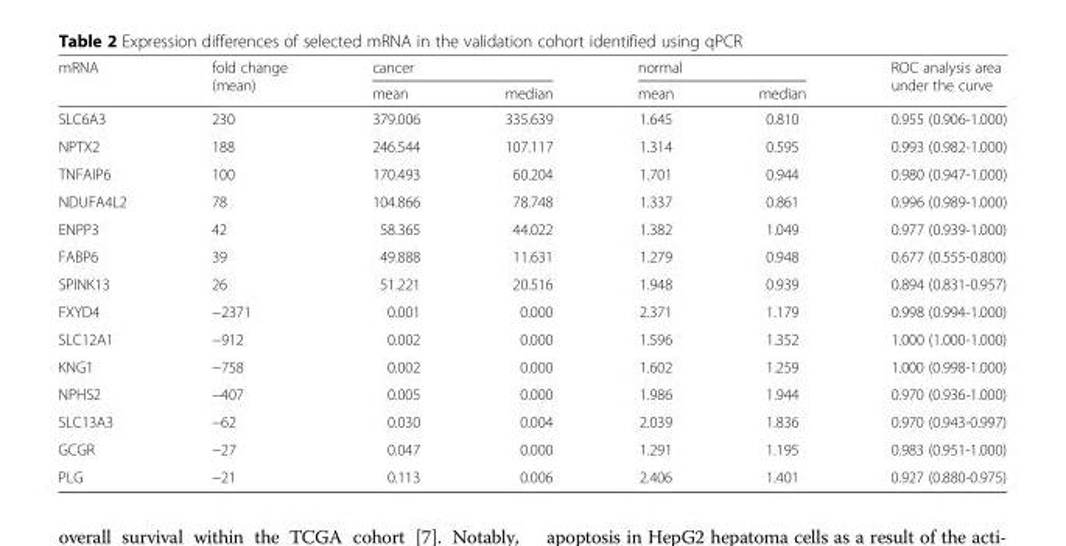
<table><thead><tr><td rowspan="2">mRNA</td><td rowspan="2">fold change (mean)</td><td colspan="2">cancer</td><td colspan="2">normal</td><td rowspan="2">ROC analysis area under the curve</td></tr><tr><td>mean</td><td>median</td><td>mean</td><td>median</td></tr></thead><tbody><tr><td>SLC6A3</td><td>230</td><td>379.006</td><td>335.639</td><td>1.645</td><td>0.810</td><td>0.955 (0.906-1.000)</td></tr><tr><td>NPTX2</td><td>188</td><td>246.544</td><td>107.117</td><td>1.314</td><td>0.595</td><td>0.993 (0.982-1.000)</td></tr><tr><td>TNFAIP6</td><td>100</td><td>170.493</td><td>60.204</td><td>1.701</td><td>0.944</td><td>0.980 (0.947-1.000)</td></tr><tr><td>NDUFA4L2</td><td>78</td><td>104.866</td><td>78.748</td><td>1.337</td><td>0.861</td><td>0.996 (0.989-1.000)</td></tr><tr><td>ENPP3</td><td>42</td><td>58.365</td><td>44.022</td><td>1.382</td><td>1.049</td><td>0.977 (0.939-1.000)</td></tr><tr><td>FABP6</td><td>39</td><td>49.888</td><td>11.631</td><td>1.279</td><td>0.948</td><td>0.677 (0.555-0.800)</td></tr><tr><td>SPINK13</td><td>26</td><td>51.221</td><td>20.516</td><td>1.948</td><td>0.939</td><td>0.894 (0.831-0.957)</td></tr><tr><td>FXYD4</td><td>−2371</td><td>0.001</td><td>0.000</td><td>2.371</td><td>1.179</td><td>0.998 (0.994-1.000)</td></tr><tr><td>SLC12A1</td><td>−912</td><td>0.002</td><td>0.000</td><td>1.596</td><td>1.352</td><td>1.000 (1.000-1.000)</td></tr><tr><td>KNG1</td><td>−758</td><td>0.002</td><td>0.000</td><td>1.602</td><td>1.259</td><td>1.000 (0.998-1.000)</td></tr><tr><td>NPHS2</td><td>−407</td><td>0.005</td><td>0.000</td><td>1.986</td><td>1.944</td><td>0.970 (0.936-1.000)</td></tr><tr><td>SLC13A3</td><td>−62</td><td>0.030</td><td>0.004</td><td>2.039</td><td>1.836</td><td>0.970 (0.943-0.997)</td></tr><tr><td>GCGR</td><td>−27</td><td>0.047</td><td>0.000</td><td>1.291</td><td>1.195</td><td>0.983 (0.951-1.000)</td></tr><tr><td>PLG</td><td>−21</td><td>0.113</td><td>0.006</td><td>2.406</td><td>1.401</td><td>0.927 (0.880-0.975)</td></tr></tbody></table>